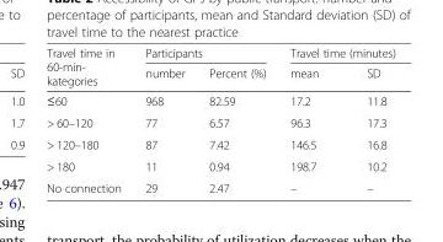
<table><thead><tr><td rowspan="2">Travel time in 60-min- kategories</td><td colspan="2">Participants</td><td colspan="2">Travel time (minutes)</td></tr><tr><td>number</td><td>Percent (%)</td><td>mean</td><td>SD</td></tr></thead><tbody><tr><td>≤60</td><td>968</td><td>82.59</td><td>17.2</td><td>11.8</td></tr><tr><td>&gt; 60–120</td><td>77</td><td>6.57</td><td>96.3</td><td>17.3</td></tr><tr><td>&gt; 120–180</td><td>87</td><td>7.42</td><td>146.5</td><td>16.8</td></tr><tr><td>&gt; 180</td><td>11</td><td>0.94</td><td>198.7</td><td>10.2</td></tr><tr><td>No connection</td><td>29</td><td>2.47</td><td>–</td><td>–</td></tr></tbody></table>